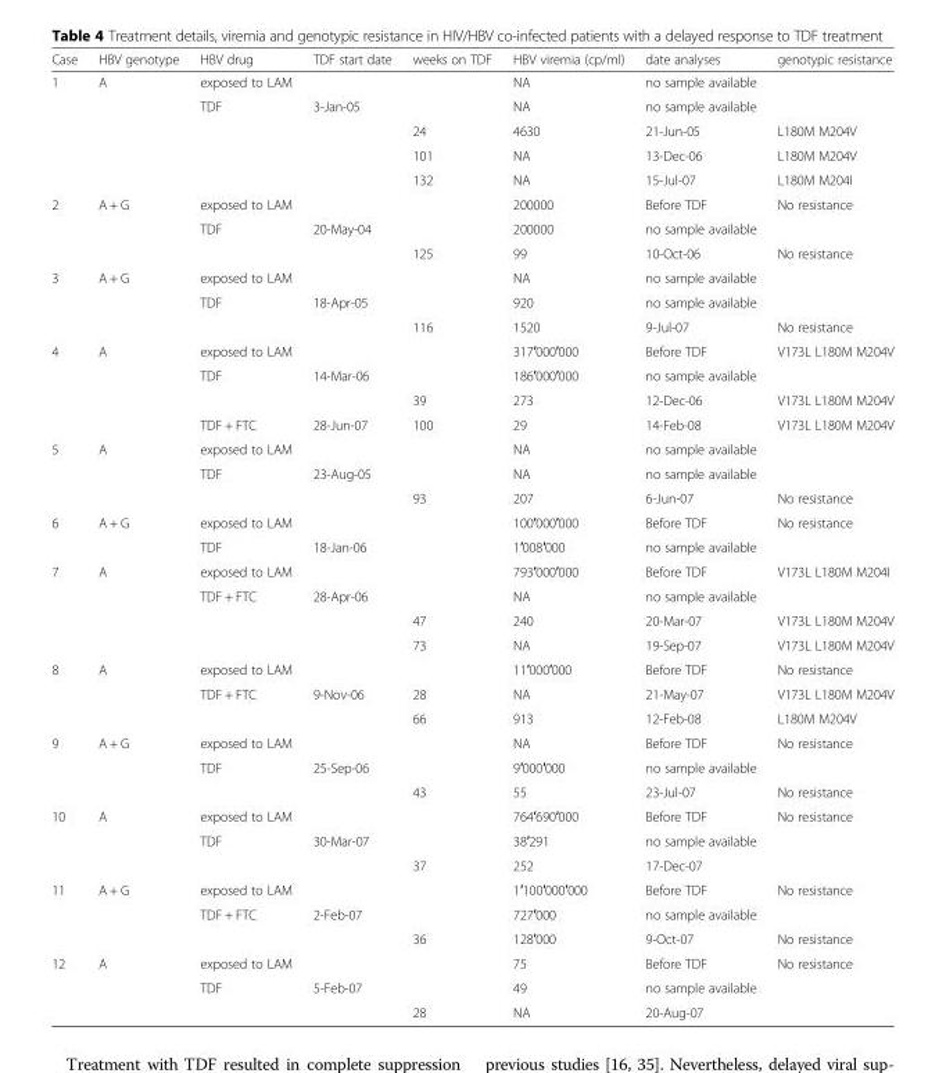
<table><thead><tr><td>Case</td><td>HBV genotype</td><td>HBV drug</td><td>TDF start date</td><td>weeks on TDF</td><td>HBV viremia (cp/ml)</td><td>date analyses</td><td>genotypic resistance</td></tr></thead><tbody><tr><td rowspan="5">1</td><td>A</td><td>exposed to LAM</td><td></td><td></td><td>NA</td><td>no sample available</td><td></td></tr><tr><td></td><td>TDF</td><td>3-Jan-05</td><td></td><td>NA</td><td>no sample available</td><td></td></tr><tr><td></td><td></td><td></td><td>24</td><td>4630</td><td>21-Jun-05</td><td>L180M M204V</td></tr><tr><td></td><td></td><td></td><td>101</td><td>NA</td><td>13-Dec-06</td><td>L180M M204V</td></tr><tr><td></td><td></td><td></td><td>132</td><td>NA</td><td>15-Jul-07</td><td>L180M M204I</td></tr><tr><td rowspan="3">2</td><td>A + G</td><td>exposed to LAM</td><td></td><td></td><td>200000</td><td>Before TDF</td><td>No resistance</td></tr><tr><td></td><td>TDF</td><td>20-May-04</td><td></td><td>200000</td><td>no sample available</td><td></td></tr><tr><td></td><td></td><td></td><td>125</td><td>99</td><td>10-Oct-06</td><td>No resistance</td></tr><tr><td rowspan="3">3</td><td>A + G</td><td>exposed to LAM</td><td></td><td></td><td>NA</td><td>no sample available</td><td></td></tr><tr><td></td><td>TDF</td><td>18-Apr-05</td><td></td><td>920</td><td>no sample available</td><td></td></tr><tr><td></td><td></td><td></td><td>116</td><td>1520</td><td>9-Jul-07</td><td>No resistance</td></tr><tr><td rowspan="4">4</td><td>A</td><td>exposed to LAM</td><td></td><td></td><td>317′000′000</td><td>Before TDF</td><td>V173L L180M M204V</td></tr><tr><td></td><td>TDF</td><td>14-Mar-06</td><td></td><td>186′000′000</td><td>no sample available</td><td></td></tr><tr><td></td><td></td><td></td><td>39</td><td>273</td><td>12-Dec-06</td><td>V173L L180M M204V</td></tr><tr><td></td><td>TDF + FTC</td><td>28-Jun-07</td><td>100</td><td>29</td><td>14-Feb-08</td><td>V173L L180M M204V</td></tr><tr><td rowspan="3">5</td><td>A</td><td>exposed to LAM</td><td></td><td></td><td>NA</td><td>no sample available</td><td></td></tr><tr><td></td><td>TDF</td><td>23-Aug-05</td><td></td><td>NA</td><td>no sample available</td><td></td></tr><tr><td></td><td></td><td></td><td>93</td><td>207</td><td>6-Jun-07</td><td>No resistance</td></tr><tr><td rowspan="2">6</td><td>A + G</td><td>exposed to LAM</td><td></td><td></td><td>100′000′000</td><td>Before TDF</td><td>No resistance</td></tr><tr><td></td><td>TDF</td><td>18-Jan-06</td><td></td><td>1′008′000</td><td>no sample available</td><td></td></tr><tr><td rowspan="4">7</td><td>A</td><td>exposed to LAM</td><td></td><td></td><td>793′000′000</td><td>Before TDF</td><td>V173L L180M M204I</td></tr><tr><td></td><td>TDF + FTC</td><td>28-Apr-06</td><td></td><td>NA</td><td>no sample available</td><td></td></tr><tr><td></td><td></td><td></td><td>47</td><td>240</td><td>20-Mar-07</td><td>V173L L180M M204V</td></tr><tr><td></td><td></td><td></td><td>73</td><td>NA</td><td>19-Sep-07</td><td>V173L L180M M204V</td></tr><tr><td rowspan="3">8</td><td>A</td><td>exposed to LAM</td><td></td><td></td><td>11′000′000</td><td>Before TDF</td><td>No resistance</td></tr><tr><td></td><td>TDF + FTC</td><td>9-Nov-06</td><td>28</td><td>NA</td><td>21-May-07</td><td>V173L L180M M204V</td></tr><tr><td></td><td></td><td></td><td>66</td><td>913</td><td>12-Feb-08</td><td>L180M M204V</td></tr><tr><td rowspan="3">9</td><td>A + G</td><td>exposed to LAM</td><td></td><td></td><td>NA</td><td>Before TDF</td><td>No resistance</td></tr><tr><td></td><td>TDF</td><td>25-Sep-06</td><td></td><td>9′000′000</td><td>no sample available</td><td></td></tr><tr><td></td><td></td><td></td><td>43</td><td>55</td><td>23-Jul-07</td><td>No resistance</td></tr><tr><td rowspan="3">10</td><td>A</td><td>exposed to LAM</td><td></td><td></td><td>764′690′000</td><td>Before TDF</td><td>No resistance</td></tr><tr><td></td><td>TDF</td><td>30-Mar-07</td><td></td><td>38′291</td><td>no sample available</td><td></td></tr><tr><td></td><td></td><td></td><td>37</td><td>252</td><td>17-Dec-07</td><td></td></tr><tr><td rowspan="3">11</td><td>A + G</td><td>exposed to LAM</td><td></td><td></td><td>1′100′000′000</td><td>Before TDF</td><td>No resistance</td></tr><tr><td></td><td>TDF + FTC</td><td>2-Feb-07</td><td></td><td>727′000</td><td>no sample available</td><td></td></tr><tr><td></td><td></td><td></td><td>36</td><td>128′000</td><td>9-Oct-07</td><td>No resistance</td></tr><tr><td rowspan="3">12</td><td>A</td><td>exposed to LAM</td><td></td><td></td><td>75</td><td>Before TDF</td><td>No resistance</td></tr><tr><td></td><td>TDF</td><td>5-Feb-07</td><td></td><td>49</td><td>no sample available</td><td></td></tr><tr><td></td><td></td><td></td><td>28</td><td>NA</td><td>20-Aug-07</td><td></td></tr></tbody></table>